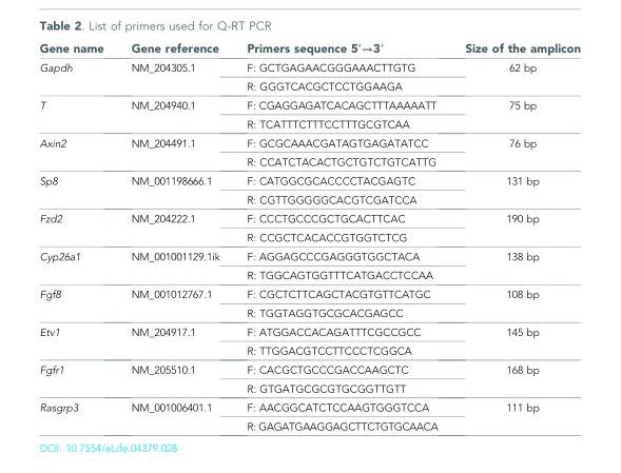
<table><thead><tr><td>Gene name</td><td>Gene reference</td><td>Primers sequence 5′→3′</td><td>Size of the amplicon</td></tr></thead><tbody><tr><td rowspan="2">Gapdh</td><td rowspan="2">NM_204305.1</td><td>F: GCTGAGAACGGGAAACTTGTG</td><td rowspan="2">62 bp</td></tr><tr><td>R: GGGTCACGCTCCTGGAAGA</td></tr><tr><td rowspan="2">T</td><td rowspan="2">NM_204940.1</td><td>F: CGAGGAGATCACAGCTTTAAAAATT</td><td rowspan="2">75 bp</td></tr><tr><td>R: TCATTTCTTTCCTTTGCGTCAA</td></tr><tr><td rowspan="2">Axin2</td><td rowspan="2">NM_204491.1</td><td>F: GCGCAAACGATAGTGAGATATCC</td><td rowspan="2">76 bp</td></tr><tr><td>R: CCATCTACACTGCTGTCTGTCATTG</td></tr><tr><td rowspan="2">Sp8</td><td rowspan="2">NM_001198666.1</td><td>F: CATGGCGCACCCCTACGAGTC</td><td rowspan="2">131 bp</td></tr><tr><td>R: CGTTGGGGGCACGTCGATCCA</td></tr><tr><td rowspan="2">Fzd2</td><td rowspan="2">NM_204222.1</td><td>F: CCCTGCCCGCTGCACTTCAC</td><td rowspan="2">190 bp</td></tr><tr><td>R: CCGCTCACACCGTGGTCTCG</td></tr><tr><td rowspan="2">Cyp26a1</td><td rowspan="2">NM_001001129.1ik</td><td>F: AGGAGCCCGAGGGTGGCTACA</td><td rowspan="2">138 bp</td></tr><tr><td>R: TGGCAGTGGTTTCATGACCTCCAA</td></tr><tr><td rowspan="2">Fgf8</td><td rowspan="2">NM_001012767.1</td><td>F: CGCTCTTCAGCTACGTGTTCATGC</td><td rowspan="2">108 bp</td></tr><tr><td>R: TGGTAGGTGCGCACGAGCC</td></tr><tr><td rowspan="2">Etv1</td><td rowspan="2">NM_204917.1</td><td>F: ATGGACCACAGATTTCGCCGCC</td><td rowspan="2">145 bp</td></tr><tr><td>R: TTGGACGTCCTTCCCTCGGCA</td></tr><tr><td rowspan="2">Fgfr1</td><td rowspan="2">NM_205510.1</td><td>F: CACGCTGCCCGACCAAGCTC</td><td rowspan="2">168 bp</td></tr><tr><td>R: GTGATGCGCGTGCGGTTGTT</td></tr><tr><td rowspan="2">Rasgrp3</td><td rowspan="2">NM_001006401.1</td><td>F: AACGGCATCTCCAAGTGGGTCCA</td><td rowspan="2">111 bp</td></tr><tr><td>R: GAGATGAAGGAGCTTCTGTGCAACA</td></tr></tbody></table>